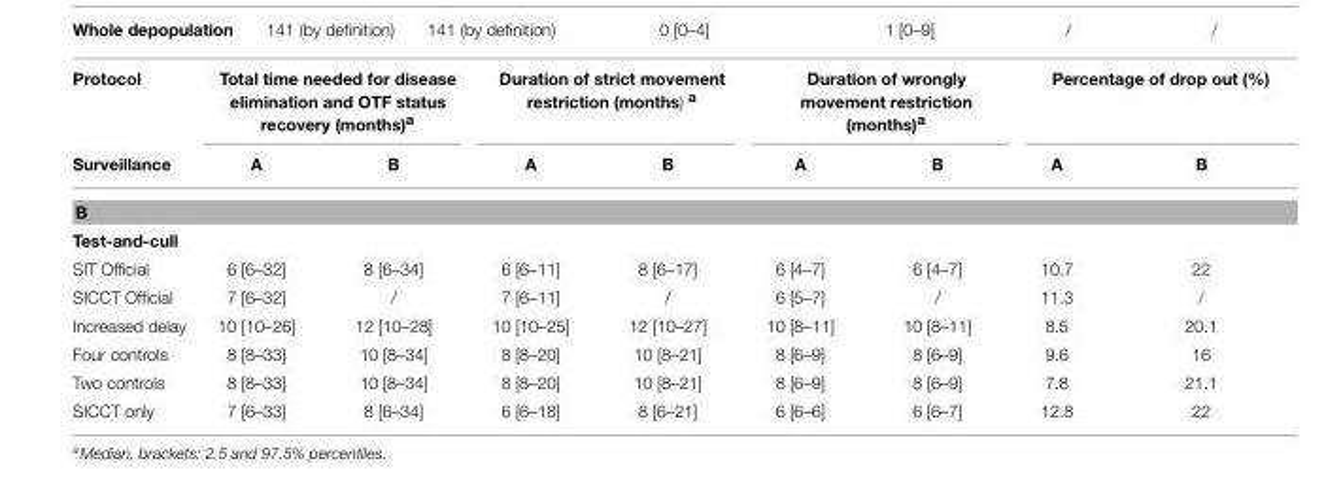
<table><thead><tr><td rowspan="2">Protocol Surveillance</td><td colspan="2">Total time needed for disease elimination and OTF status recovery (months)<sup>a</sup></td><td colspan="2">Duration of strict movement restriction (months) <sup>a</sup></td><td colspan="2">Duration of wrongly movement restriction (months)<sup>a</sup></td><td colspan="2">Percentage of drop out (%)</td></tr><tr><td>A</td><td>B</td><td>A</td><td>B</td><td>A</td><td>B</td><td>A</td><td>B</td></tr></thead><tbody><tr><td colspan="9">B</td></tr><tr><td colspan="9">Test-and-cull</td></tr><tr><td>SIT Official</td><td>6 [6–32]</td><td>8 [6–34]</td><td>6 [6–11]</td><td>8 [6–17]</td><td>6 [4–7]</td><td>6 [4–7]</td><td>10.7</td><td>22</td></tr><tr><td>SICCT Official</td><td>7 [6–32]</td><td>/</td><td>7 [6–11]</td><td>/</td><td>6 [5–7]</td><td>/</td><td>11.3</td><td>/</td></tr><tr><td>Increased delay</td><td>10 [10–26]</td><td>12 [10–28]</td><td>10 [10–25]</td><td>12 [10–27]</td><td>10 [8–11]</td><td>10 [8–11]</td><td>8.5</td><td>20.1</td></tr><tr><td>Four controls</td><td>8 [8–33]</td><td>10 [8–34]</td><td>8 [8–20]</td><td>10 [8–21]</td><td>8 [6–9]</td><td>8 [6–9]</td><td>9.6</td><td>16</td></tr><tr><td>Two controls</td><td>8 [8–33]</td><td>10 [8–34]</td><td>8 [8–20]</td><td>10 [8–21]</td><td>8 [6–9]</td><td>8 [6–9]</td><td>7.8</td><td>21.1</td></tr><tr><td>SICCT only</td><td>7 [6–33]</td><td>8 [6–34]</td><td>6 [6–18]</td><td>8 [6–21]</td><td>6 [6–6]</td><td>6 [6–7]</td><td>12.8</td><td>22</td></tr></tbody></table>